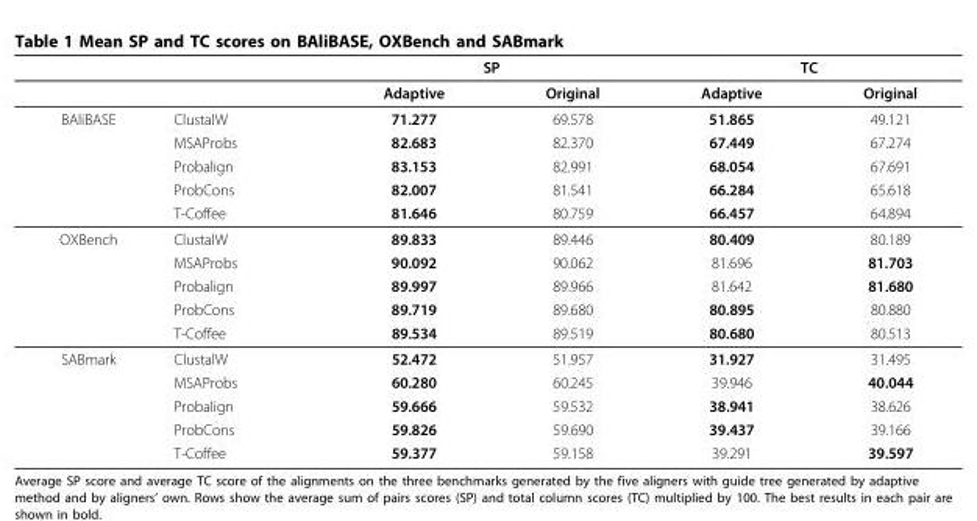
<table><thead><tr><td rowspan="2"></td><td rowspan="2"></td><td colspan="2">SP</td><td colspan="2">TC</td></tr><tr><td>Adaptive</td><td>Original</td><td>Adaptive</td><td>Original</td></tr></thead><tbody><tr><td rowspan="5">BAliBASE</td><td>ClustalW</td><td>71.277</td><td>69.578</td><td>51.865</td><td>49.121</td></tr><tr><td>MSAProbs</td><td>82.683</td><td>82.370</td><td>67.449</td><td>67.274</td></tr><tr><td>Probalign</td><td>83.153</td><td>82.991</td><td>68.054</td><td>67.691</td></tr><tr><td>ProbCons</td><td>82.007</td><td>81.541</td><td>66.284</td><td>65.618</td></tr><tr><td>T-Coffee</td><td>81.646</td><td>80.759</td><td>66.457</td><td>64.894</td></tr><tr><td rowspan="5">OXBench</td><td>ClustalW</td><td>89.833</td><td>89.446</td><td>80.409</td><td>80.189</td></tr><tr><td>MSAProbs</td><td>90.092</td><td>90.062</td><td>81.696</td><td>81.703</td></tr><tr><td>Probalign</td><td>89.997</td><td>89.966</td><td>81.642</td><td>81.680</td></tr><tr><td>ProbCons</td><td>89.719</td><td>89.680</td><td>80.895</td><td>80.880</td></tr><tr><td>T-Coffee</td><td>89.534</td><td>89.519</td><td>80.680</td><td>80.513</td></tr><tr><td rowspan="5">SABmark</td><td>ClustalW</td><td>52.472</td><td>51.957</td><td>31.927</td><td>31.495</td></tr><tr><td>MSAProbs</td><td>60.280</td><td>60.245</td><td>39.946</td><td>40.044</td></tr><tr><td>Probalign</td><td>59.666</td><td>59.532</td><td>38.941</td><td>38.626</td></tr><tr><td>ProbCons</td><td>59.826</td><td>59.690</td><td>39.437</td><td>39.166</td></tr><tr><td>T-Coffee</td><td>59.377</td><td>59.158</td><td>39.291</td><td>39.597</td></tr></tbody></table>